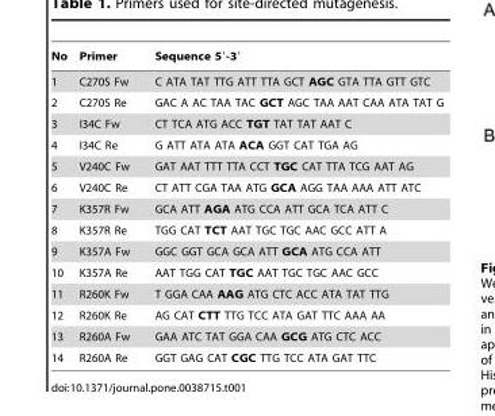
<table><thead><tr><td>No</td><td>Primer</td><td>Sequence 5′-3′</td></tr></thead><tbody><tr><td>1</td><td>C270S Fw</td><td>C ATA TAT TTG ATT TTA GCT AGC GTA TTA GTT GTC</td></tr><tr><td>2</td><td>C270S Re</td><td>GAC A AC TAA TAC GCT AGC TAA AAT CAA ATA TAT G</td></tr><tr><td>3</td><td>I34C Fw</td><td>CT TCA ATG ACC TGT TAT TAT AAT C</td></tr><tr><td>4</td><td>I34C Re</td><td>G ATT ATA ATA ACA GGT CAT TGA AG</td></tr><tr><td>5</td><td>V240C Fw</td><td>GAT AAT TTT TTA CCT TGC CAT TTA TCG AAT AG</td></tr><tr><td>6</td><td>V240C Re</td><td>CT ATT CGA TAA ATG GCA AGG TAA AAA ATT ATC</td></tr><tr><td>7</td><td>K357R Fw</td><td>GCA ATT AGA ATG CCA ATT GCA TCA ATT C</td></tr><tr><td>8</td><td>K357R Re</td><td>TGG CAT TCT AAT TGC TGC AAC GCC ATT A</td></tr><tr><td>9</td><td>K357A Fw</td><td>GGC GGT GCA GCA ATT GCA ATG CCA ATT</td></tr><tr><td>10</td><td>K357A Re</td><td>AAT TGG CAT TGC AAT TGC TGC AAC GCC</td></tr><tr><td>11</td><td>R260K Fw</td><td>T GGA CAA AAG ATG CTC ACC ATA TAT TTG</td></tr><tr><td>12</td><td>R260K Re</td><td>AG CAT CTT TTG TCC ATA GAT TTC AAA AA</td></tr><tr><td>13</td><td>R260A Fw</td><td>GAA ATC TAT GGA CAA GCG ATG CTC ACC</td></tr><tr><td>14</td><td>R260A Re</td><td>GGT GAG CAT CGC TTG TCC ATA GAT TTC</td></tr></tbody></table>